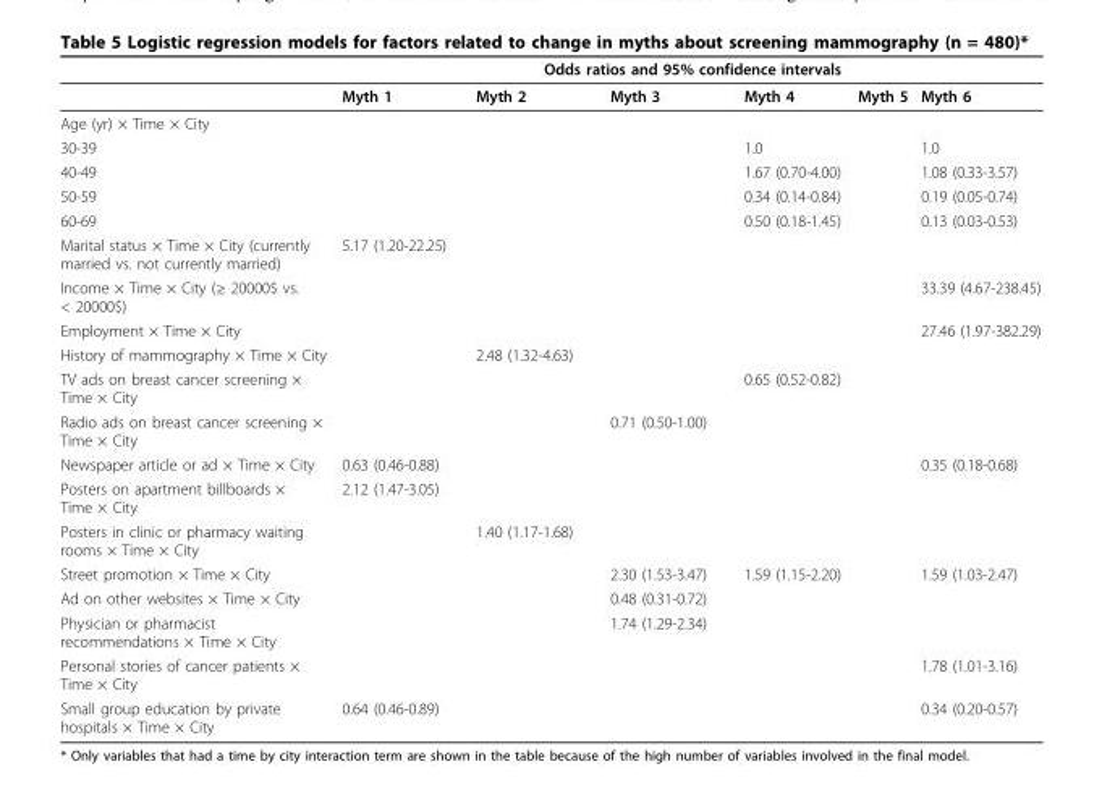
<table><thead><tr><td rowspan="2"></td><td colspan="6">Odds ratios and 95% confidence intervals</td></tr><tr><td>Myth 1</td><td>Myth 2</td><td>Myth 3</td><td>Myth 4</td><td>Myth 5</td><td>Myth 6</td></tr></thead><tbody><tr><td colspan="7">Age (yr) × Time × City</td></tr><tr><td>30-39</td><td></td><td></td><td></td><td>1.0</td><td></td><td>1.0</td></tr><tr><td>40-49</td><td></td><td></td><td></td><td>1.67 (0.70-4.00)</td><td></td><td>1.08 (0.33-3.57)</td></tr><tr><td>50-59</td><td></td><td></td><td></td><td>0.34 (0.14-0.84)</td><td></td><td>0.19 (0.05-0.74)</td></tr><tr><td>60-69</td><td></td><td></td><td></td><td>0.50 (0.18-1.45)</td><td></td><td>0.13 (0.03-0.53)</td></tr><tr><td>Marital status × Time × City (currently married vs. not currently married)</td><td>5.17 (1.20-22.25)</td><td></td><td></td><td></td><td></td><td></td></tr><tr><td>Income × Time × City (≥ 20000$ vs. &lt; 20000$)</td><td></td><td></td><td></td><td></td><td></td><td>33.39 (4.67-238.45)</td></tr><tr><td>Employment × Time × City</td><td></td><td></td><td></td><td></td><td></td><td>27.46 (1.97-382.29)</td></tr><tr><td>History of mammography × Time × City</td><td></td><td>2.48 (1.32-4.63)</td><td></td><td></td><td></td><td></td></tr><tr><td>TV ads on breast cancer screening × Time × City</td><td></td><td></td><td></td><td>0.65 (0.52-0.82)</td><td></td><td></td></tr><tr><td>Radio ads on breast cancer screening × Time × City</td><td></td><td></td><td>0.71 (0.50-1.00)</td><td></td><td></td><td></td></tr><tr><td>Newspaper article or ad × Time × City</td><td>0.63 (0.46-0.88)</td><td></td><td></td><td></td><td></td><td>0.35 (0.18-0.68)</td></tr><tr><td>Posters on apartment billboards × Time × City</td><td>2.12 (1.47-3.05)</td><td></td><td></td><td></td><td></td><td></td></tr><tr><td>Posters in clinic or pharmacy waiting rooms × Time × City</td><td></td><td>1.40 (1.17-1.68)</td><td></td><td></td><td></td><td></td></tr><tr><td>Street promotion × Time × City</td><td></td><td></td><td>2.30 (1.53-3.47)</td><td>1.59 (1.15-2.20)</td><td></td><td>1.59 (1.03-2.47)</td></tr><tr><td>Ad on other websites × Time × City</td><td></td><td></td><td>0.48 (0.31-0.72)</td><td></td><td></td><td></td></tr><tr><td>Physician or pharmacist recommendations × Time × City</td><td></td><td></td><td>1.74 (1.29-2.34)</td><td></td><td></td><td></td></tr><tr><td>Personal stories of cancer patients × Time × City</td><td></td><td></td><td></td><td></td><td></td><td>1.78 (1.01-3.16)</td></tr><tr><td>Small group education by private hospitals × Time × City</td><td>0.64 (0.46-0.89)</td><td></td><td></td><td></td><td></td><td>0.34 (0.20-0.57)</td></tr></tbody></table>